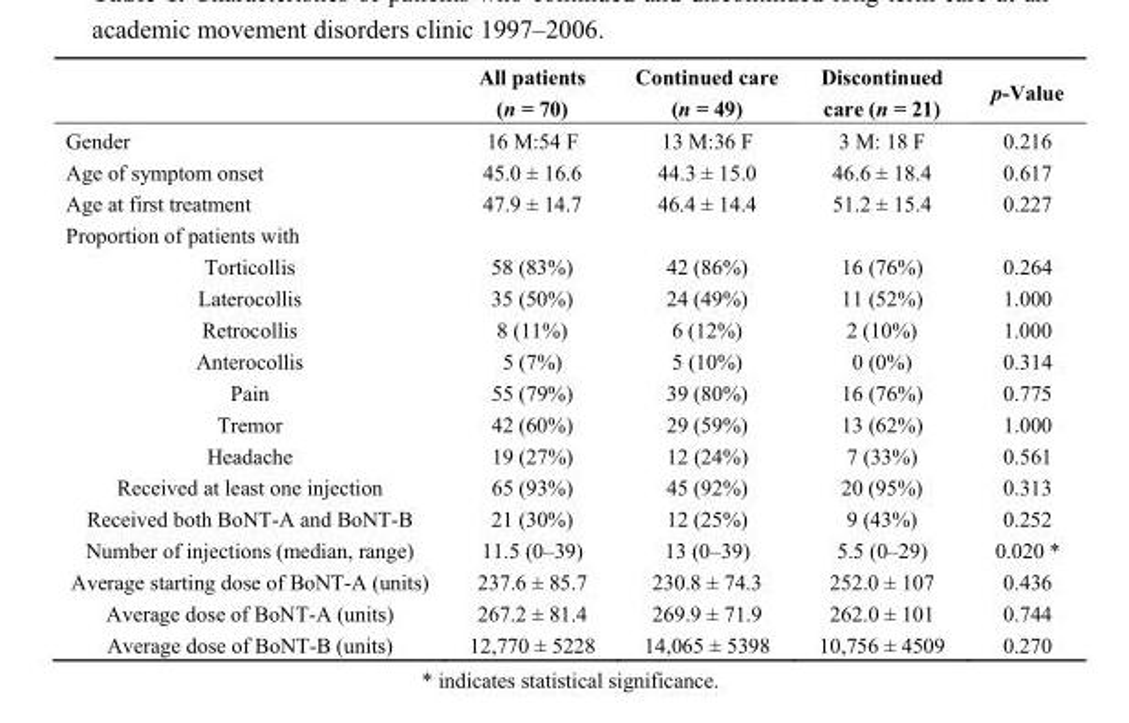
<table><thead><tr><td></td><td>All patients (n = 70)</td><td>Continued care (n = 49)</td><td>Discontinued care (n = 21)</td><td>p-Value</td></tr></thead><tbody><tr><td>Gender</td><td>16 M:54 F</td><td>13 M:36 F</td><td>3 M: 18 F</td><td>0.216</td></tr><tr><td>Age of symptom onset</td><td>45.0 ± 16.6</td><td>44.3 ± 15.0</td><td>46.6 ± 18.4</td><td>0.617</td></tr><tr><td>Age at first treatment</td><td>47.9 ± 14.7</td><td>46.4 ± 14.4</td><td>51.2 ± 15.4</td><td>0.227</td></tr><tr><td colspan="5">Proportion of patients with</td></tr><tr><td>Torticollis</td><td>58 (83%)</td><td>42 (86%)</td><td>16 (76%)</td><td>0.264</td></tr><tr><td>Laterocollis</td><td>35 (50%)</td><td>24 (49%)</td><td>11 (52%)</td><td>1.000</td></tr><tr><td>Retrocollis</td><td>8 (11%)</td><td>6 (12%)</td><td>2 (10%)</td><td>1.000</td></tr><tr><td>Anterocollis</td><td>5 (7%)</td><td>5 (10%)</td><td>0 (0%)</td><td>0.314</td></tr><tr><td>Pain</td><td>55 (79%)</td><td>39 (80%)</td><td>16 (76%)</td><td>0.775</td></tr><tr><td>Tremor</td><td>42 (60%)</td><td>29 (59%)</td><td>13 (62%)</td><td>1.000</td></tr><tr><td>Headache</td><td>19 (27%)</td><td>12 (24%)</td><td>7 (33%)</td><td>0.561</td></tr><tr><td>Received at least one injection</td><td>65 (93%)</td><td>45 (92%)</td><td>20 (95%)</td><td>0.313</td></tr><tr><td>Received both BoNT-A and BoNT-B</td><td>21 (30%)</td><td>12 (25%)</td><td>9 (43%)</td><td>0.252</td></tr><tr><td>Number of injections (median, range)</td><td>11.5 (0–39)</td><td>13 (0–39)</td><td>5.5 (0–29)</td><td>0.020 *</td></tr><tr><td>Average starting dose of BoNT-A (units)</td><td>237.6 ± 85.7</td><td>230.8 ± 74.3</td><td>252.0 ± 107</td><td>0.436</td></tr><tr><td>Average dose of BoNT-A (units)</td><td>267.2 ± 81.4</td><td>269.9 ± 71.9</td><td>262.0 ± 101</td><td>0.744</td></tr><tr><td>Average dose of BoNT-B (units)</td><td>12,770 ± 5228</td><td>14,065 ± 5398</td><td>10,756 ± 4509</td><td>0.270</td></tr></tbody></table>